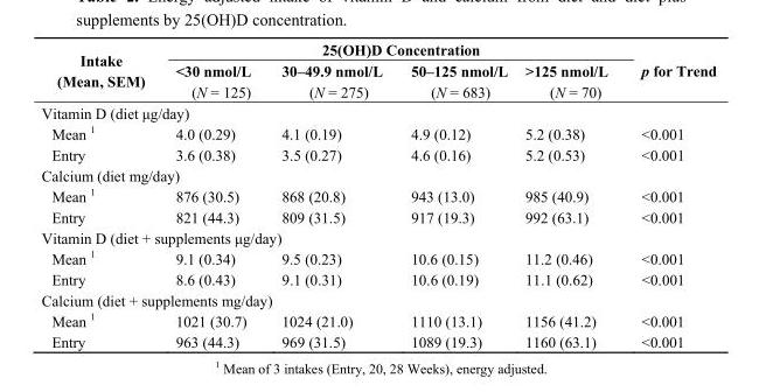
<table><thead><tr><td rowspan="3">Intake (Mean, SEM)</td><td colspan="4">25(OH)D Concentration</td><td rowspan="3">p for Trend</td></tr><tr><td rowspan="2">&lt;30 nmol/L (N = 125)</td><td rowspan="2">30–49.9 nmol/L (N = 275)</td><td rowspan="2">50–125 nmol/L (N = 683)</td><td rowspan="2">&gt;125 nmol/L (N = 70)</td></tr><tr></tr></thead><tbody><tr><td colspan="6">Vitamin D (diet μg/day)</td></tr><tr><td>Mean <sup>1</sup></td><td>4.0 (0.29)</td><td>4.1 (0.19)</td><td>4.9 (0.12)</td><td>5.2 (0.38)</td><td>&lt;0.001</td></tr><tr><td>Entry</td><td>3.6 (0.38)</td><td>3.5 (0.27)</td><td>4.6 (0.16)</td><td>5.2 (0.53)</td><td>&lt;0.001</td></tr><tr><td colspan="6">Calcium (diet mg/day)</td></tr><tr><td>Mean <sup>1</sup></td><td>876 (30.5)</td><td>868 (20.8)</td><td>943 (13.0)</td><td>985 (40.9)</td><td>&lt;0.001</td></tr><tr><td>Entry</td><td>821 (44.3)</td><td>809 (31.5)</td><td>917 (19.3)</td><td>992 (63.1)</td><td>&lt;0.001</td></tr><tr><td colspan="6">Vitamin D (diet + supplements μg/day)</td></tr><tr><td>Mean <sup>1</sup></td><td>9.1 (0.34)</td><td>9.5 (0.23)</td><td>10.6 (0.15)</td><td>11.2 (0.46)</td><td>&lt;0.001</td></tr><tr><td>Entry</td><td>8.6 (0.43)</td><td>9.1 (0.31)</td><td>10.6 (0.19)</td><td>11.1 (0.62)</td><td>&lt;0.001</td></tr><tr><td colspan="6">Calcium (diet + supplements mg/day)</td></tr><tr><td>Mean <sup>1</sup></td><td>1021 (30.7)</td><td>1024 (21.0)</td><td>1110 (13.1)</td><td>1156 (41.2)</td><td>&lt;0.001</td></tr><tr><td>Entry</td><td>963 (44.3)</td><td>969 (31.5)</td><td>1089 (19.3)</td><td>1160 (63.1)</td><td>&lt;0.001</td></tr></tbody></table>